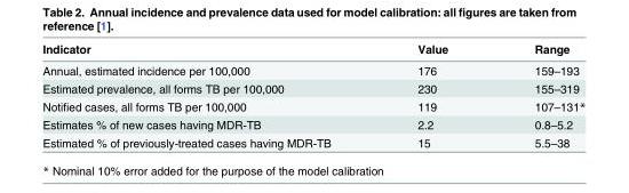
<table><thead><tr><td>Indicator</td><td>Value</td><td>Range</td></tr></thead><tbody><tr><td>Annual, estimated incidence per 100,000</td><td>176</td><td>159–193</td></tr><tr><td>Estimated prevalence, all forms TB per 100,000</td><td>230</td><td>155–319</td></tr><tr><td>Notified cases, all forms TB per 100,000</td><td>119</td><td>107–131*</td></tr><tr><td>Estimates % of new cases having MDR-TB</td><td>2.2</td><td>0.8–5.2</td></tr><tr><td>Estimated % of previously-treated cases having MDR-TB</td><td>15</td><td>5.5–38</td></tr></tbody></table>